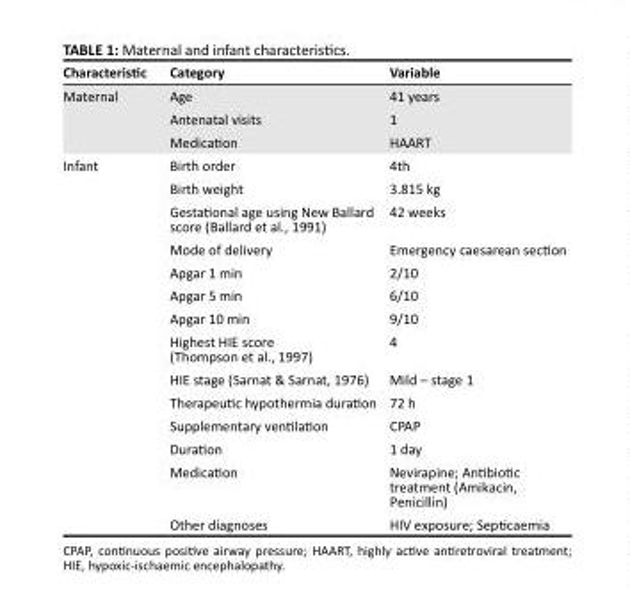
<table><thead><tr><td>Characteristic</td><td>Category</td><td>Variable</td></tr></thead><tbody><tr><td rowspan="3">Maternal</td><td>Age</td><td>41 years</td></tr><tr><td>Antenatal visits</td><td>1</td></tr><tr><td>Medication</td><td>HAART</td></tr><tr><td rowspan="14">Infant</td><td>Birth order</td><td>4th</td></tr><tr><td>Birth weight</td><td>3.815 kg</td></tr><tr><td>Gestational age using New Ballard score (Ballard et al., 1991)</td><td>42 weeks</td></tr><tr><td>Mode of delivery</td><td>Emergency caesarean section</td></tr><tr><td>Apgar 1 min</td><td>2/10</td></tr><tr><td>Apgar 5 min</td><td>6/10</td></tr><tr><td>Apgar 10 min</td><td>9/10</td></tr><tr><td>Highest HIE score (Thompson et al., 1997)</td><td>4</td></tr><tr><td>HIE stage (Sarnat &amp; Sarnat, 1976)</td><td>Mild – stage 1</td></tr><tr><td>Therapeutic hypothermia duration</td><td>72 h</td></tr><tr><td>Supplementary ventilation</td><td>CPAP</td></tr><tr><td>Duration</td><td>1 day</td></tr><tr><td>Medication</td><td>Nevirapine; Antibiotic treatment (Amikacin, Penicillin)</td></tr><tr><td>Other diagnoses</td><td>HIV exposure; Septicaemia</td></tr></tbody></table>